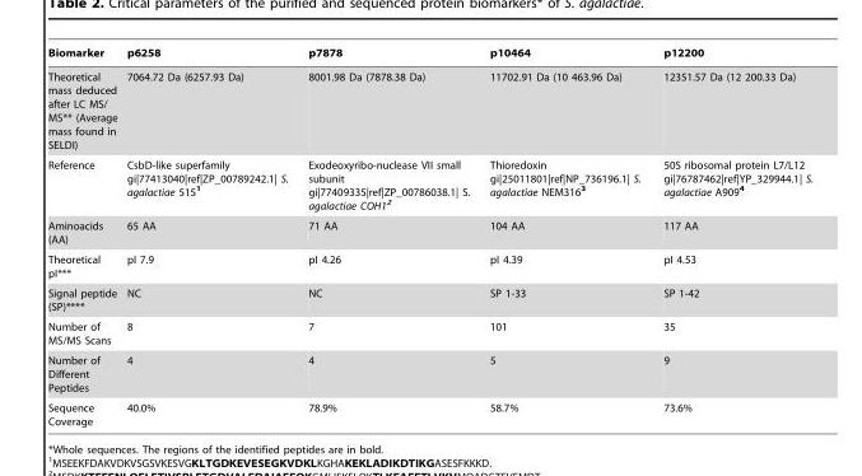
<table><thead><tr><td>Biomarker</td><td>p6258</td><td>p7878</td><td>p10464</td><td>p12200</td></tr></thead><tbody><tr><td>Theoretical mass deduced after LC MS/ MS** (Average mass found in SELDI)</td><td>7064.72 Da (6257.93 Da)</td><td>8001.98 Da (7878.38 Da)</td><td>11702.91 Da (10 463.96 Da)</td><td>12351.57 Da (12 200.33 Da)</td></tr><tr><td>Reference</td><td>CsbD-like superfamily gi|77413040|ref|ZP_00789242.1| S. agalactiae 515<sup>1</sup></td><td>Exodeoxyribo-nuclease VII small subunit gi|77409335|ref|ZP_00786038.1| S. agalactiae COH12</td><td>Thioredoxin gi|25011801|ref|NP_736196.1| S. agalactiae NEM316<sup>3</sup></td><td>50S ribosomal protein L7/L12 gi|76787462|ref|YP_329944.1| S. agalactiae A909<sup>4</sup></td></tr><tr><td>Aminoacids (AA)</td><td>65 AA</td><td>71 AA</td><td>104 AA</td><td>117 AA</td></tr><tr><td>Theoretical pI***</td><td>pI 7.9</td><td>pI 4.26</td><td>pI 4.39</td><td>pI 4.53</td></tr><tr><td>Signal peptide (SP)****</td><td>NC</td><td>NC</td><td>SP 1-33</td><td>SP 1-42</td></tr><tr><td>Number of MS/MS Scans</td><td>8</td><td>7</td><td>101</td><td>35</td></tr><tr><td>Number of Different Peptides</td><td>4</td><td>4</td><td>5</td><td>9</td></tr><tr><td>Sequence Coverage</td><td>40.0%</td><td>78.9%</td><td>58.7%</td><td>73.6%</td></tr></tbody></table>